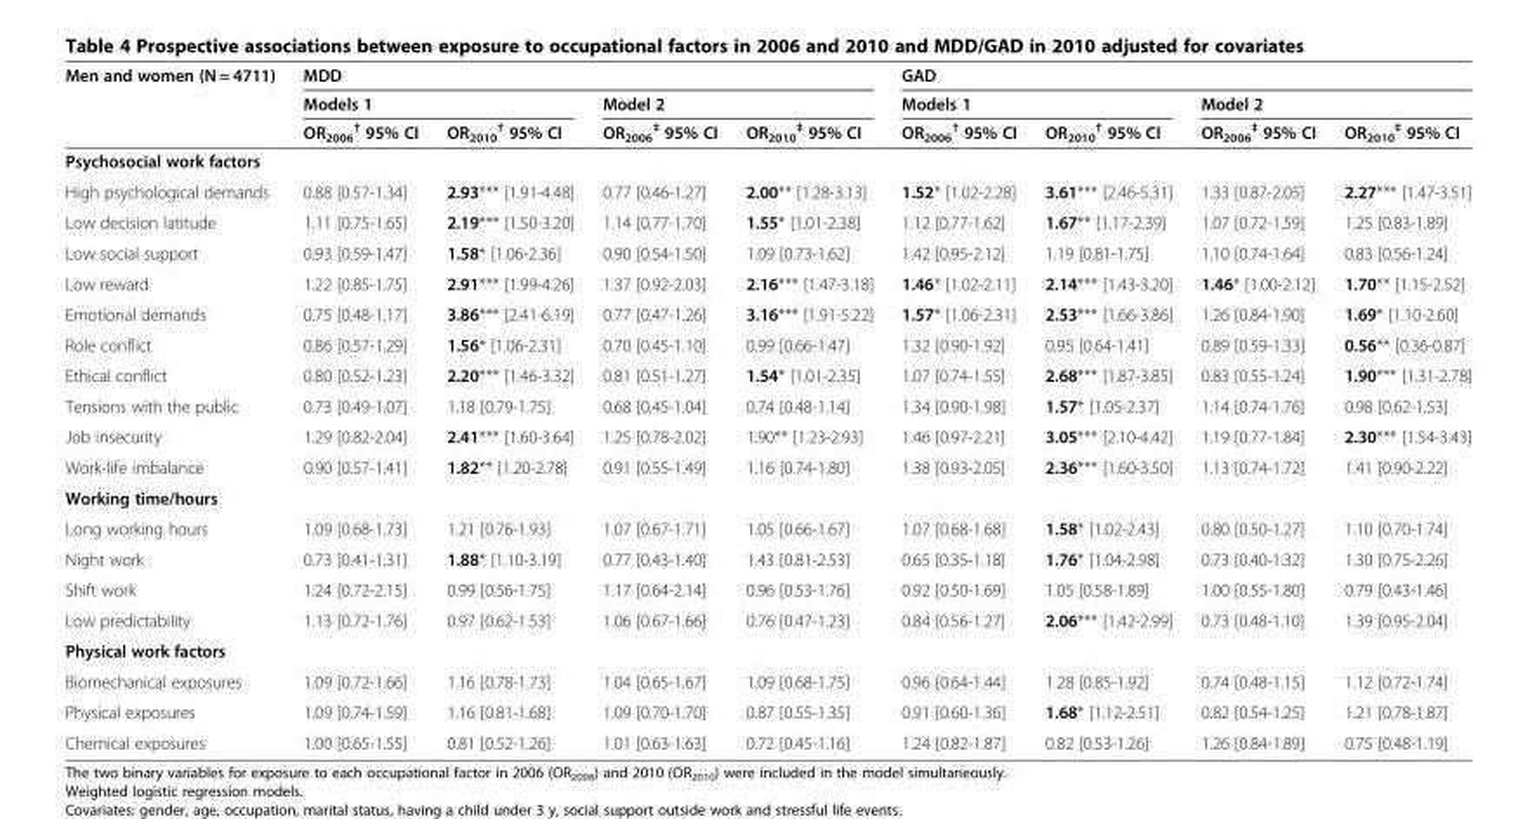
<table><thead><tr><td rowspan="3">Men and women (N = 4711)</td><td colspan="4">MDD</td><td colspan="4">GAD</td></tr><tr><td colspan="2">Models 1</td><td colspan="2">Model 2</td><td colspan="2">Models 1</td><td colspan="2">Model 2</td></tr><tr><td>OR<sub>2006</sub> <sup>†</sup> 95% CI</td><td>OR<sub>2010</sub> <sup>†</sup> 95% CI</td><td>OR<sub>2006</sub> <sup>‡</sup> 95% CI</td><td>OR<sub>2010</sub> <sup>‡</sup> 95% CI</td><td>OR<sub>2006</sub> <sup>†</sup> 95% CI</td><td>OR<sub>2010</sub> <sup>†</sup> 95% CI</td><td>OR<sub>2006</sub> <sup>‡</sup> 95% CI</td><td>OR<sub>2010</sub> <sup>‡</sup> 95% CI</td></tr></thead><tbody><tr><td colspan="9">Psychosocial work factors</td></tr><tr><td>High psychological demands</td><td>0.88 [0.57-1.34]</td><td>2.93*** [1.91-4.48]</td><td>0.77 [0.46-1.27]</td><td>2.00** [1.28-3.13]</td><td>1.52* [1.02-2.28]</td><td>3.61*** [2.46-5.31]</td><td>1.33 [0.87-2.05]</td><td>2.27*** [1.47-3.51]</td></tr><tr><td>Low decision latitude</td><td>1.11 [0.75-1.65]</td><td>2.19*** [1.50-3.20]</td><td>1.14 [0.77-1.70]</td><td>1.55* [1.01-2.38]</td><td>1.12 [0.77-1.62]</td><td>1.67** [1.17-2.39]</td><td>1.07 [0.72-1.59]</td><td>1.25 [0.83-1.89]</td></tr><tr><td>Low social support</td><td>0.93 [0.59-1.47]</td><td>1.58* [1.06-2.36]</td><td>0.90 [0.54-1.50]</td><td>1.09 [0.73-1.62]</td><td>1.42 [0.95-2.12]</td><td>1.19 [0.81-1.75]</td><td>1.10 [0.74-1.64]</td><td>0.83 [0.56-1.24]</td></tr><tr><td>Low reward</td><td>1.22 [0.85-1.75]</td><td>2.91*** [1.99-4.26]</td><td>1.37 [0.92-2.03]</td><td>2.16*** [1.47-3.18]</td><td>1.46* [1.02-2.11]</td><td>2.14*** [1.43-3.20]</td><td>1.46* [1.00-2.12]</td><td>1.70** [1.15-2.52]</td></tr><tr><td>Emotional demands</td><td>0.75 [0.48-1.17]</td><td>3.86*** [2.41-6.19]</td><td>0.77 [0.47-1.26]</td><td>3.16*** [1.91-5.22]</td><td>1.57* [1.06-2.31]</td><td>2.53*** [1.66-3.86]</td><td>1.26 [0.84-1.90]</td><td>1.69* [1.10-2.60]</td></tr><tr><td>Role conflict</td><td>0.86 [0.57-1.29]</td><td>1.56* [1.06-2.31]</td><td>0.70 [0.45-1.10]</td><td>0.99 [0.66-1.47]</td><td>1.32 [0.90-1.92]</td><td>0.95 [0.64-1.41]</td><td>0.89 [0.59-1.33]</td><td>0.56** [0.36-0.87]</td></tr><tr><td>Ethical conflict</td><td>0.80 [0.52-1.23]</td><td>2.20*** [1.46-3.32]</td><td>0.81 [0.51-1.27]</td><td>1.54* [1.01-2.35]</td><td>1.07 [0.74-1.55]</td><td>2.68*** [1.87-3.85]</td><td>0.83 [0.55-1.24]</td><td>1.90*** [1.31-2.78]</td></tr><tr><td>Tensions with the public</td><td>0.73 [0.49-1.07]</td><td>1.18 [0.79-1.75]</td><td>0.68 [0.45-1.04]</td><td>0.74 [0.48-1.14]</td><td>1.34 [0.90-1.98]</td><td>1.57* [1.05-2.37]</td><td>1.14 [0.74-1.76]</td><td>0.98 [0.62-1.53]</td></tr><tr><td>Job insecurity</td><td>1.29 [0.82-2.04]</td><td>2.41*** [1.60-3.64]</td><td>1.25 [0.78-2.02]</td><td>1.90** [1.23-2.93]</td><td>1.46 [0.97-2.21]</td><td>3.05*** [2.10-4.42]</td><td>1.19 [0.77-1.84]</td><td>2.30*** [1.54-3.43]</td></tr><tr><td>Work-life imbalance</td><td>0.90 [0.57-1.41]</td><td>1.82** [1.20-2.78]</td><td>0.91 [0.55-1.49]</td><td>1.16 [0.74-1.80]</td><td>1.38 [0.93-2.05]</td><td>2.36*** [1.60-3.50]</td><td>1.13 [0.74-1.72]</td><td>1.41 [0.90-2.22]</td></tr><tr><td colspan="9">Working time/hours</td></tr><tr><td>Long working hours</td><td>1.09 [0.68-1.73]</td><td>1.21 [0.76-1.93]</td><td>1.07 [0.67-1.71]</td><td>1.05 [0.66-1.67]</td><td>1.07 [0.68-1.68]</td><td>1.58* [1.02-2.43]</td><td>0.80 [0.50-1.27]</td><td>1.10 [0.70-1.74]</td></tr><tr><td>Night work</td><td>0.73 [0.41-1.31]</td><td>1.88* [1.10-3.19]</td><td>0.77 [0.43-1.40]</td><td>1.43 [0.81-2.53]</td><td>0.65 [0.35-1.18]</td><td>1.76* [1.04-2.98]</td><td>0.73 [0.40-1.32]</td><td>1.30 [0.75-2.26]</td></tr><tr><td>Shift work</td><td>1.24 [0.72-2.15]</td><td>0.99 [0.56-1.75]</td><td>1.17 [0.64-2.14]</td><td>0.96 [0.53-1.76]</td><td>0.92 [0.50-1.69]</td><td>1.05 [0.58-1.89]</td><td>1.00 [0.55-1.80]</td><td>0.79 [0.43-1.46]</td></tr><tr><td>Low predictability</td><td>1.13 [0.72-1.76]</td><td>0.97 [0.62-1.53]</td><td>1.06 [0.67-1.66]</td><td>0.76 [0.47-1.23]</td><td>0.84 [0.56-1.27]</td><td>2.06*** [1.42-2.99]</td><td>0.73 [0.48-1.10]</td><td>1.39 [0.95-2.04]</td></tr><tr><td colspan="9">Physical work factors</td></tr><tr><td>Biomechanical exposures</td><td>1.09 [0.72-1.66]</td><td>1.16 [0.78-1.73]</td><td>1.04 [0.65-1.67]</td><td>1.09 [0.68-1.75]</td><td>0.96 [0.64-1.44]</td><td>1.28 [0.85-1.92]</td><td>0.74 [0.48-1.15]</td><td>1.12 [0.72-1.74]</td></tr><tr><td>Physical exposures</td><td>1.09 [0.74-1.59]</td><td>1.16 [0.81-1.68]</td><td>1.09 [0.70-1.70]</td><td>0.87 [0.55-1.35]</td><td>0.91 [0.60-1.36]</td><td>1.68* [1.12-2.51]</td><td>0.82 [0.54-1.25]</td><td>1.21 [0.78-1.87]</td></tr><tr><td>Chemical exposures</td><td>1.00 [0.65-1.55]</td><td>0.81 [0.52-1.26]</td><td>1.01 [0.63-1.63]</td><td>0.72 [0.45-1.16]</td><td>1.24 [0.82-1.87]</td><td>0.82 [0.53-1.26]</td><td>1.26 [0.84-1.89]</td><td>0.75 [0.48-1.19]</td></tr></tbody></table>